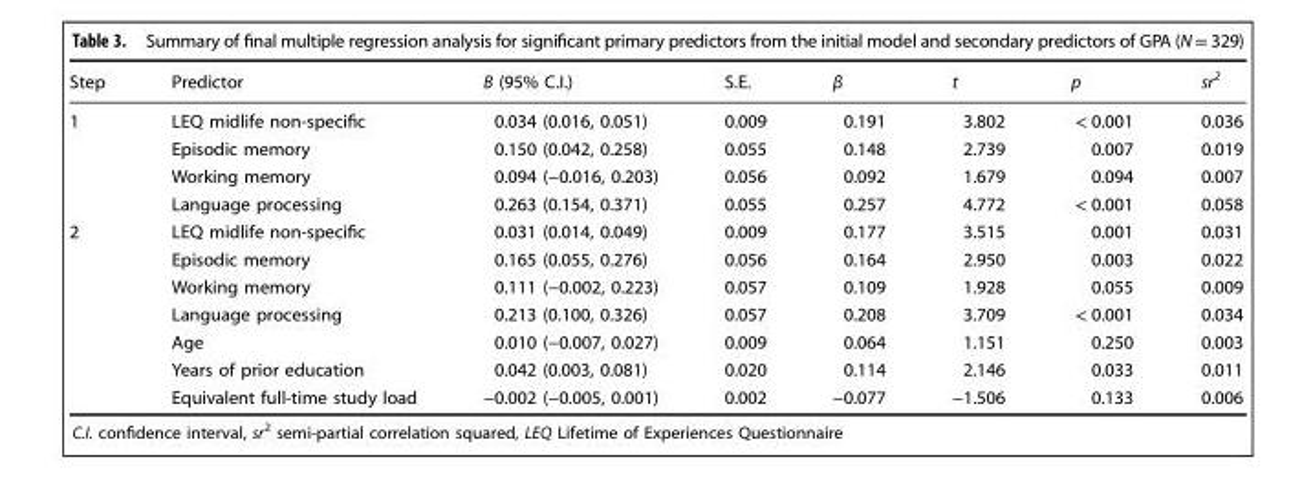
<table><thead><tr><td>Step</td><td>Predictor</td><td>B (95% C.I.)</td><td>S.E.</td><td>β</td><td>t</td><td>p</td><td>sr<sup>2</sup></td></tr></thead><tbody><tr><td rowspan="4">1</td><td>LEQ midlife non-specific</td><td>0.034 (0.016, 0.051)</td><td>0.009</td><td>0.191</td><td>3.802</td><td>&lt; 0.001</td><td>0.036</td></tr><tr><td>Episodic memory</td><td>0.150 (0.042, 0.258)</td><td>0.055</td><td>0.148</td><td>2.739</td><td>0.007</td><td>0.019</td></tr><tr><td>Working memory</td><td>0.094 (−0.016, 0.203)</td><td>0.056</td><td>0.092</td><td>1.679</td><td>0.094</td><td>0.007</td></tr><tr><td>Language processing</td><td>0.263 (0.154, 0.371)</td><td>0.055</td><td>0.257</td><td>4.772</td><td>&lt; 0.001</td><td>0.058</td></tr><tr><td rowspan="7">2</td><td>LEQ midlife non-specific</td><td>0.031 (0.014, 0.049)</td><td>0.009</td><td>0.177</td><td>3.515</td><td>0.001</td><td>0.031</td></tr><tr><td>Episodic memory</td><td>0.165 (0.055, 0.276)</td><td>0.056</td><td>0.164</td><td>2.950</td><td>0.003</td><td>0.022</td></tr><tr><td>Working memory</td><td>0.111 (−0.002, 0.223)</td><td>0.057</td><td>0.109</td><td>1.928</td><td>0.055</td><td>0.009</td></tr><tr><td>Language processing</td><td>0.213 (0.100, 0.326)</td><td>0.057</td><td>0.208</td><td>3.709</td><td>&lt; 0.001</td><td>0.034</td></tr><tr><td>Age</td><td>0.010 (−0.007, 0.027)</td><td>0.009</td><td>0.064</td><td>1.151</td><td>0.250</td><td>0.003</td></tr><tr><td>Years of prior education</td><td>0.042 (0.003, 0.081)</td><td>0.020</td><td>0.114</td><td>2.146</td><td>0.033</td><td>0.011</td></tr><tr><td>Equivalent full-time study load</td><td>−0.002 (−0.005, 0.001)</td><td>0.002</td><td>−0.077</td><td>−1.506</td><td>0.133</td><td>0.006</td></tr></tbody></table>